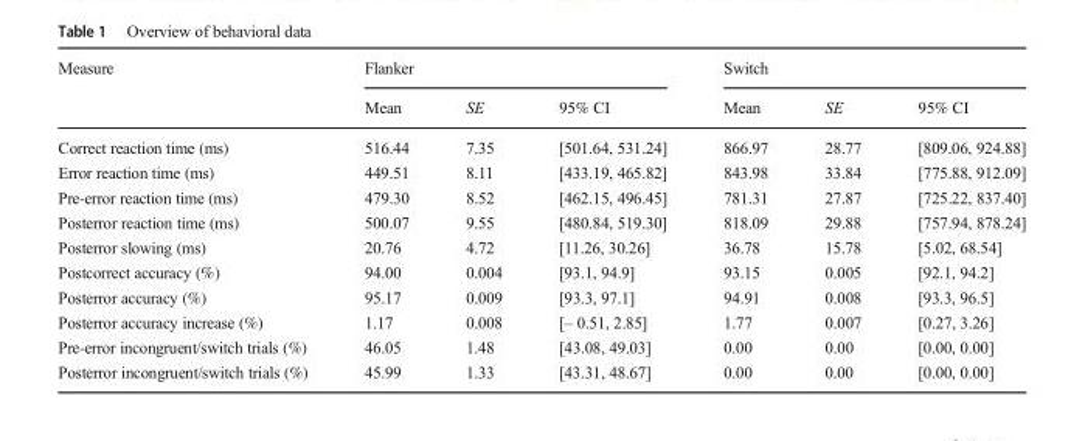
<table><thead><tr><td rowspan="2">Measure</td><td colspan="3">Flanker</td><td colspan="3">Switch</td></tr><tr><td>Mean</td><td>SE</td><td>95% CI</td><td>Mean</td><td>SE</td><td>95% CI</td></tr></thead><tbody><tr><td>Correct reaction time (ms)</td><td>516.44</td><td>7.35</td><td>[501.64, 531.24]</td><td>866.97</td><td>28.77</td><td>[809.06, 924.88]</td></tr><tr><td>Error reaction time (ms)</td><td>449.51</td><td>8.11</td><td>[433.19, 465.82]</td><td>843.98</td><td>33.84</td><td>[775.88, 912.09]</td></tr><tr><td>Pre-error reaction time (ms)</td><td>479.30</td><td>8.52</td><td>[462.15, 496.45]</td><td>781.31</td><td>27.87</td><td>[725.22, 837.40]</td></tr><tr><td>Posterror reaction time (ms)</td><td>500.07</td><td>9.55</td><td>[480.84, 519.30]</td><td>818.09</td><td>29.88</td><td>[757.94, 878.24]</td></tr><tr><td>Posterror slowing (ms)</td><td>20.76</td><td>4.72</td><td>[11.26, 30.26]</td><td>36.78</td><td>15.78</td><td>[5.02, 68.54]</td></tr><tr><td>Postcorrect accuracy (%)</td><td>94.00</td><td>0.004</td><td>[93.1, 94.9]</td><td>93.15</td><td>0.005</td><td>[92.1, 94.2]</td></tr><tr><td>Posterror accuracy (%)</td><td>95.17</td><td>0.009</td><td>[93.3, 97.1]</td><td>94.91</td><td>0.008</td><td>[93.3, 96.5]</td></tr><tr><td>Posterror accuracy increase (%)</td><td>1.17</td><td>0.008</td><td>[– 0.51, 2.85]</td><td>1.77</td><td>0.007</td><td>[0.27, 3.26]</td></tr><tr><td>Pre-error incongruent/switch trials (%)</td><td>46.05</td><td>1.48</td><td>[43.08, 49.03]</td><td>0.00</td><td>0.00</td><td>[0.00, 0.00]</td></tr><tr><td>Posterror incongruent/switch trials (%)</td><td>45.99</td><td>1.33</td><td>[43.31, 48.67]</td><td>0.00</td><td>0.00</td><td>[0.00, 0.00]</td></tr></tbody></table>